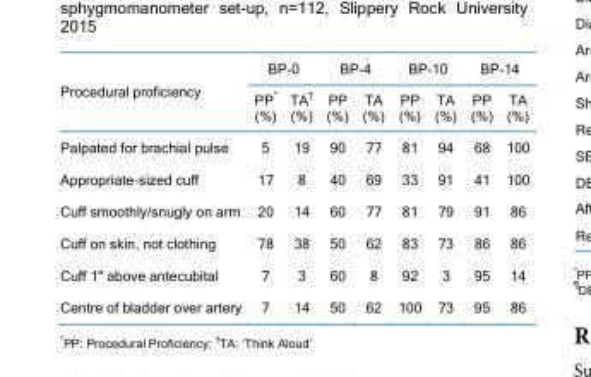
<table><thead><tr><td rowspan="2">Procedural proficiency</td><td colspan="2">BP-0</td><td colspan="2">BP-4</td><td colspan="2">BP-10</td><td colspan="2">BP-14</td></tr><tr><td>PP* (%)</td><td>TA<sup>†</sup> (%)</td><td>PP (%)</td><td>TA (%)</td><td>PP (%)</td><td>TA (%)</td><td>PP (%)</td><td>TA (%)</td></tr></thead><tbody><tr><td>Palpated for brachial pulse</td><td>5</td><td>19</td><td>90</td><td>77</td><td>81</td><td>94</td><td>68</td><td>100</td></tr><tr><td>Appropriate-sized cuff</td><td>17</td><td>8</td><td>40</td><td>69</td><td>33</td><td>91</td><td>41</td><td>100</td></tr><tr><td>Cuff smoothly/snugly on arm</td><td>20</td><td>14</td><td>60</td><td>77</td><td>81</td><td>79</td><td>91</td><td>86</td></tr><tr><td>Cuff on skin, not clothing</td><td>78</td><td>38</td><td>50</td><td>62</td><td>83</td><td>73</td><td>86</td><td>86</td></tr><tr><td>Cuff 1&quot; above antecubital</td><td>7</td><td>3</td><td>60</td><td>8</td><td>92</td><td>3</td><td>95</td><td>14</td></tr><tr><td>Centre of bladder over artery</td><td>7</td><td>14</td><td>50</td><td>62</td><td>100</td><td>73</td><td>95</td><td>86</td></tr></tbody></table>